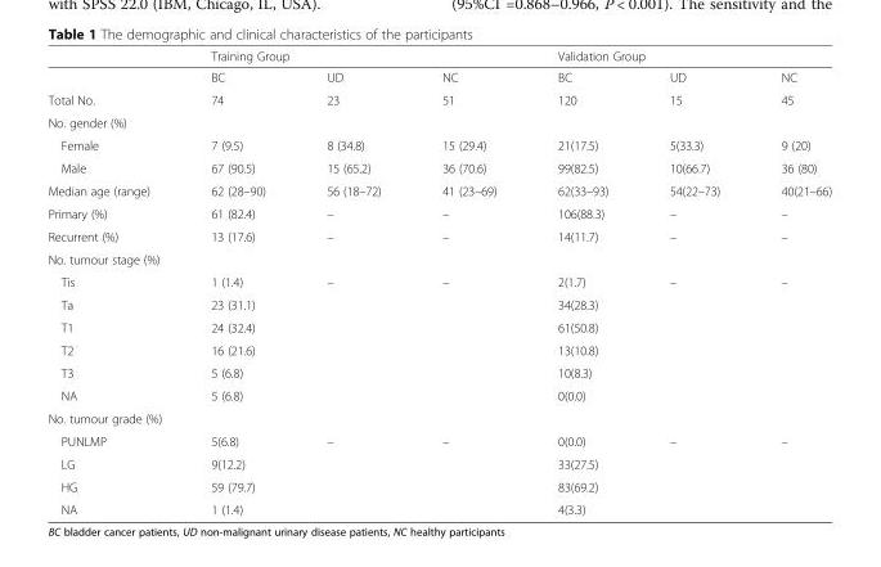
<table><thead><tr><td rowspan="2"></td><td colspan="3">Training Group</td><td colspan="3">Validation Group</td></tr><tr><td>BC</td><td>UD</td><td>NC</td><td>BC</td><td>UD</td><td>NC</td></tr></thead><tbody><tr><td>Total No.</td><td>74</td><td>23</td><td>51</td><td>120</td><td>15</td><td>45</td></tr><tr><td colspan="7">No. gender (%)</td></tr><tr><td>Female</td><td>7 (9.5)</td><td>8 (34.8)</td><td>15 (29.4)</td><td>21(17.5)</td><td>5(33.3)</td><td>9 (20)</td></tr><tr><td>Male</td><td>67 (90.5)</td><td>15 (65.2)</td><td>36 (70.6)</td><td>99(82.5)</td><td>10(66.7)</td><td>36 (80)</td></tr><tr><td>Median age (range)</td><td>62 (28–90)</td><td>56 (18–72)</td><td>41 (23–69)</td><td>62(33–93)</td><td>54(22–73)</td><td>40(21–66)</td></tr><tr><td>Primary (%)</td><td>61 (82.4)</td><td>–</td><td>–</td><td>106(88.3)</td><td>–</td><td>–</td></tr><tr><td>Recurrent (%)</td><td>13 (17.6)</td><td>–</td><td>–</td><td>14(11.7)</td><td>–</td><td>–</td></tr><tr><td colspan="7">No. tumour stage (%)</td></tr><tr><td>Tis</td><td>1 (1.4)</td><td rowspan="6">–</td><td rowspan="6">–</td><td>2(1.7)</td><td rowspan="6">–</td><td rowspan="6">–</td></tr><tr><td>Ta</td><td>23 (31.1)</td><td>34(28.3)</td></tr><tr><td>T1</td><td>24 (32.4)</td><td>61(50.8)</td></tr><tr><td>T2</td><td>16 (21.6)</td><td>13(10.8)</td></tr><tr><td>T3</td><td>5 (6.8)</td><td>10(8.3)</td></tr><tr><td>NA</td><td>5 (6.8)</td><td>0(0.0)</td></tr><tr><td colspan="7">No. tumour grade (%)</td></tr><tr><td>PUNLMP</td><td>5(6.8)</td><td rowspan="4">–</td><td rowspan="4">–</td><td>0(0.0)</td><td rowspan="4">–</td><td rowspan="4">–</td></tr><tr><td>LG</td><td>9(12.2)</td><td>33(27.5)</td></tr><tr><td>HG</td><td>59 (79.7)</td><td>83(69.2)</td></tr><tr><td>NA</td><td>1 (1.4)</td><td>4(3.3)</td></tr></tbody></table>